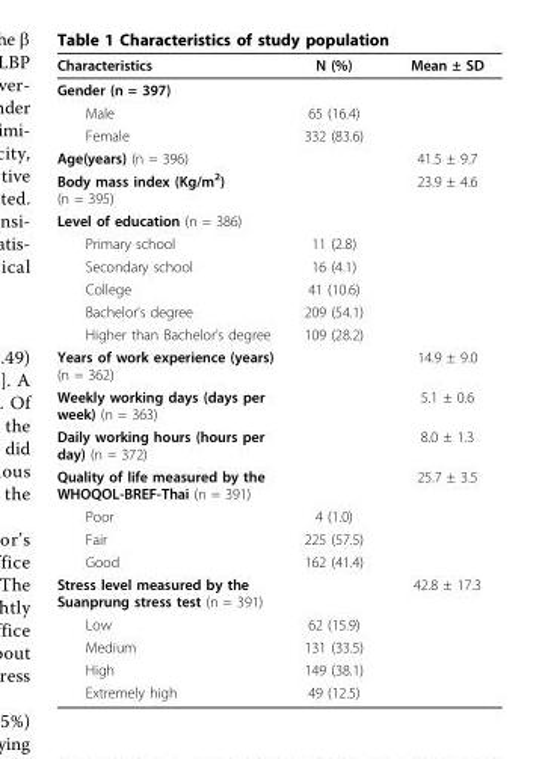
<table><thead><tr><td>Characteristics</td><td>N (%)</td><td>Mean ± SD</td></tr></thead><tbody><tr><td colspan="3">Gender (n = 397)</td></tr><tr><td>Male</td><td>65 (16.4)</td><td></td></tr><tr><td>Female</td><td>332 (83.6)</td><td></td></tr><tr><td>Age(years) (n = 396)</td><td></td><td>41.5 ± 9.7</td></tr><tr><td>Body mass index (Kg/m<sup>2</sup>) (n = 395)</td><td></td><td>23.9 ± 4.6</td></tr><tr><td colspan="3">Level of education (n = 386)</td></tr><tr><td>Primary school</td><td>11 (2.8)</td><td></td></tr><tr><td>Secondary school</td><td>16 (4.1)</td><td></td></tr><tr><td>College</td><td>41 (10.6)</td><td></td></tr><tr><td>Bachelor’s degree</td><td>209 (54.1)</td><td></td></tr><tr><td>Higher than Bachelor’s degree</td><td>109 (28.2)</td><td></td></tr><tr><td>Years of work experience (years) (n = 362)</td><td></td><td>14.9 ± 9.0</td></tr><tr><td>Weekly working days (days per week) (n = 363)</td><td></td><td>5.1 ± 0.6</td></tr><tr><td>Daily working hours (hours per day) (n = 372)</td><td></td><td>8.0 ± 1.3</td></tr><tr><td>Quality of life measured by the WHOQOL-BREF-Thai (n = 391)</td><td></td><td>25.7 ± 3.5</td></tr><tr><td>Poor</td><td>4 (1.0)</td><td></td></tr><tr><td>Fair</td><td>225 (57.5)</td><td></td></tr><tr><td>Good</td><td>162 (41.4)</td><td></td></tr><tr><td>Stress level measured by the Suanprung stress test (n = 391)</td><td></td><td>42.8 ± 17.3</td></tr><tr><td>Low</td><td>62 (15.9)</td><td></td></tr><tr><td>Medium</td><td>131 (33.5)</td><td></td></tr><tr><td>High</td><td>149 (38.1)</td><td></td></tr><tr><td>Extremely high</td><td>49 (12.5)</td><td></td></tr></tbody></table>